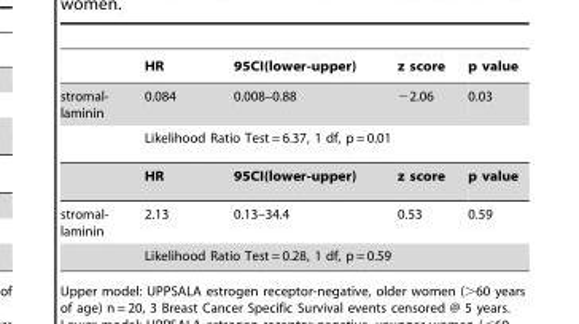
<table><thead><tr><td></td><td>HR</td><td>95CI(lower-upper)</td><td>z score</td><td>p value</td></tr></thead><tbody><tr><td rowspan="3">stromal- laminin</td><td>0.084</td><td>0.008–0.88</td><td>−2.06</td><td>0.03</td></tr><tr><td colspan="4">Likelihood Ratio Test = 6.37, 1 df, p = 0.01</td></tr><tr><td>HR</td><td>95CI(lower-upper)</td><td>z score</td><td>p value</td></tr><tr><td rowspan="2">stromal- laminin</td><td>2.13</td><td>0.13–34.4</td><td>0.53</td><td>0.59</td></tr><tr><td colspan="4">Likelihood Ratio Test = 0.28, 1 df, p = 0.59</td></tr></tbody></table>